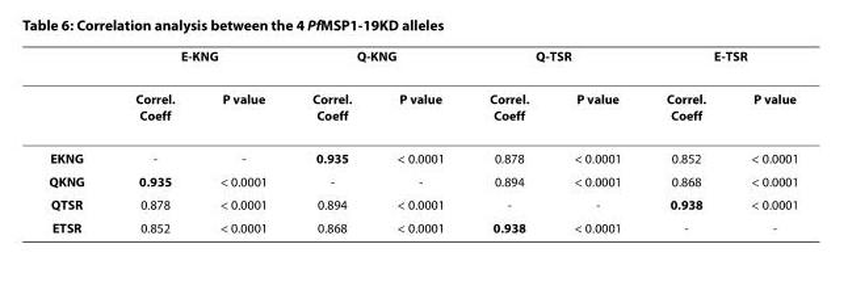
<table><thead><tr><td rowspan="2"></td><td colspan="2">E-KNG</td><td colspan="2">Q-KNG</td><td colspan="2">Q-TSR</td><td colspan="2">E-TSR</td></tr><tr><td>Correl. Coeff</td><td>P value</td><td>Correl. Coeff</td><td>P value</td><td>Correl. Coeff</td><td>P value</td><td>Correl. Coeff</td><td>P value</td></tr></thead><tbody><tr><td>EKNG</td><td>-</td><td>-</td><td>0.935</td><td>&lt; 0.0001</td><td>0.878</td><td>&lt; 0.0001</td><td>0.852</td><td>&lt; 0.0001</td></tr><tr><td>QKNG</td><td>0.935</td><td>&lt; 0.0001</td><td>-</td><td>-</td><td>0.894</td><td>&lt; 0.0001</td><td>0.868</td><td>&lt; 0.0001</td></tr><tr><td>QTSR</td><td>0.878</td><td>&lt; 0.0001</td><td>0.894</td><td>&lt; 0.0001</td><td>-</td><td>-</td><td>0.938</td><td>&lt; 0.0001</td></tr><tr><td>ETSR</td><td>0.852</td><td>&lt; 0.0001</td><td>0.868</td><td>&lt; 0.0001</td><td>0.938</td><td>&lt; 0.0001</td><td>-</td><td>-</td></tr></tbody></table>